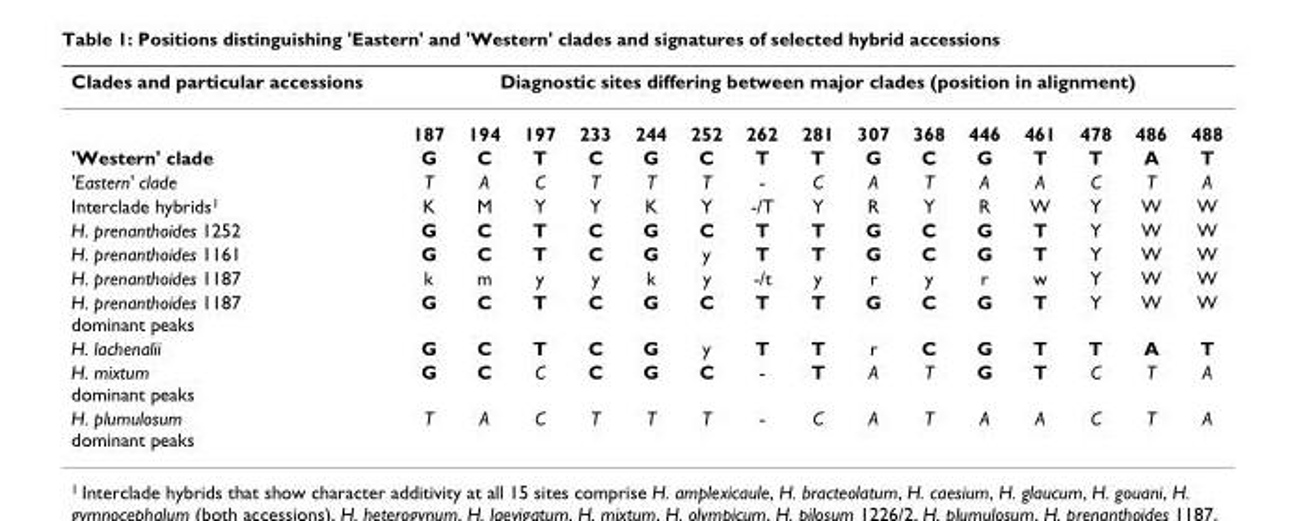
<table><thead><tr><td rowspan="2">Clades and particular accessions</td><td colspan="15">Diagnostic sites differing between major clades (position in alignment)</td></tr><tr><td>187</td><td>194</td><td>197</td><td>233</td><td>244</td><td>252</td><td>262</td><td>281</td><td>307</td><td>368</td><td>446</td><td>461</td><td>478</td><td>486</td><td>488</td></tr></thead><tbody><tr><td>&#x27;Western&#x27; clade</td><td>G</td><td>C</td><td>T</td><td>C</td><td>G</td><td>C</td><td>T</td><td>T</td><td>G</td><td>C</td><td>G</td><td>T</td><td>T</td><td>A</td><td>T</td></tr><tr><td>&#x27;Eastern&#x27; clade</td><td>T</td><td>A</td><td>C</td><td>T</td><td>T</td><td>T</td><td>-</td><td>C</td><td>A</td><td>T</td><td>A</td><td>A</td><td>C</td><td>T</td><td>A</td></tr><tr><td>Interclade hybrids<sup>1</sup></td><td>K</td><td>M</td><td>Y</td><td>Y</td><td>K</td><td>Y</td><td>-/T</td><td>Y</td><td>R</td><td>Y</td><td>R</td><td>W</td><td>Y</td><td>W</td><td>W</td></tr><tr><td>H. prenanthoides 1252</td><td>G</td><td>C</td><td>T</td><td>C</td><td>G</td><td>C</td><td>T</td><td>T</td><td>G</td><td>C</td><td>G</td><td>T</td><td>Y</td><td>W</td><td>W</td></tr><tr><td>H. prenanthoides 1161</td><td>G</td><td>C</td><td>T</td><td>C</td><td>G</td><td>y</td><td>T</td><td>T</td><td>G</td><td>C</td><td>G</td><td>T</td><td>Y</td><td>W</td><td>W</td></tr><tr><td>H. prenanthoides 1187</td><td>k</td><td>m</td><td>y</td><td>y</td><td>k</td><td>y</td><td>-/t</td><td>y</td><td>r</td><td>y</td><td>r</td><td>w</td><td>Y</td><td>W</td><td>W</td></tr><tr><td>H. prenanthoides 1187 dominant peaks</td><td>G</td><td>C</td><td>T</td><td>C</td><td>G</td><td>C</td><td>T</td><td>T</td><td>G</td><td>C</td><td>G</td><td>T</td><td>Y</td><td>W</td><td>W</td></tr><tr><td>H. lachenalii</td><td>G</td><td>C</td><td>T</td><td>C</td><td>G</td><td>y</td><td>T</td><td>T</td><td>r</td><td>C</td><td>G</td><td>T</td><td>T</td><td>A</td><td>T</td></tr><tr><td>H. mixtum dominant peaks</td><td>G</td><td>C</td><td>C</td><td>C</td><td>G</td><td>C</td><td>-</td><td>T</td><td>A</td><td>T</td><td>G</td><td>T</td><td>C</td><td>T</td><td>A</td></tr><tr><td>H. plumulosum dominant peaks</td><td>T</td><td>A</td><td>C</td><td>T</td><td>T</td><td>T</td><td>-</td><td>C</td><td>A</td><td>T</td><td>A</td><td>A</td><td>C</td><td>T</td><td>A</td></tr></tbody></table>